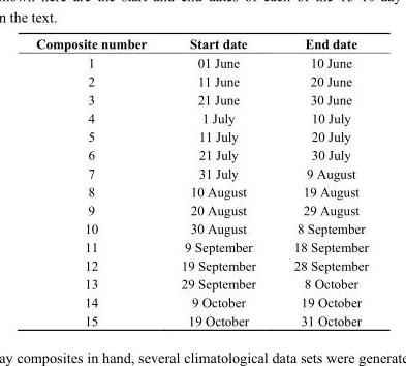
<table><thead><tr><td>Composite number</td><td>Start date</td><td>End date</td></tr></thead><tbody><tr><td>1</td><td>01 June</td><td>10 June</td></tr><tr><td>2</td><td>11 June</td><td>20 June</td></tr><tr><td>3</td><td>21 June</td><td>30 June</td></tr><tr><td>4</td><td>1 July</td><td>10 July</td></tr><tr><td>5</td><td>11 July</td><td>20 July</td></tr><tr><td>6</td><td>21 July</td><td>30 July</td></tr><tr><td>7</td><td>31 July</td><td>9 August</td></tr><tr><td>8</td><td>10 August</td><td>19 August</td></tr><tr><td>9</td><td>20 August</td><td>29 August</td></tr><tr><td>10</td><td>30 August</td><td>8 September</td></tr><tr><td>11</td><td>9 September</td><td>18 September</td></tr><tr><td>12</td><td>19 September</td><td>28 September</td></tr><tr><td>13</td><td>29 September</td><td>8 October</td></tr><tr><td>14</td><td>9 October</td><td>19 October</td></tr><tr><td>15</td><td>19 October</td><td>31 October</td></tr></tbody></table>